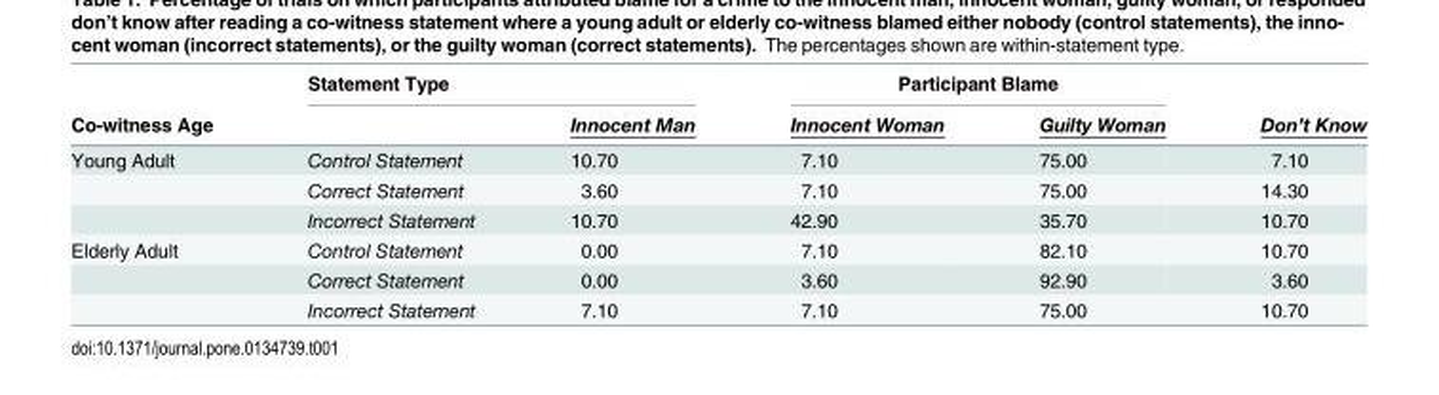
<table><thead><tr><td rowspan="2">Co-witness Age</td><td colspan="2">Statement Type</td><td colspan="2">Participant Blame</td><td rowspan="2">Don’t Know</td></tr><tr><td></td><td>Innocent Man</td><td>Innocent Woman</td><td>Guilty Woman</td></tr></thead><tbody><tr><td rowspan="3">Young Adult</td><td>Control Statement</td><td>10.70</td><td>7.10</td><td>75.00</td><td>7.10</td></tr><tr><td>Correct Statement</td><td>3.60</td><td>7.10</td><td>75.00</td><td>14.30</td></tr><tr><td>Incorrect Statement</td><td>10.70</td><td>42.90</td><td>35.70</td><td>10.70</td></tr><tr><td rowspan="3">Elderly Adult</td><td>Control Statement</td><td>0.00</td><td>7.10</td><td>82.10</td><td>10.70</td></tr><tr><td>Correct Statement</td><td>0.00</td><td>3.60</td><td>92.90</td><td>3.60</td></tr><tr><td>Incorrect Statement</td><td>7.10</td><td>7.10</td><td>75.00</td><td>10.70</td></tr></tbody></table>